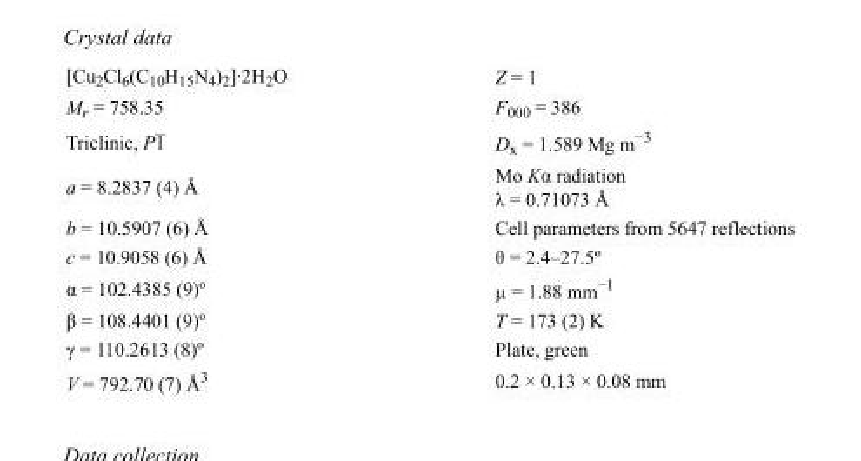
<table><tbody><tr><td>[Cu<sub>2</sub>Cl<sub>6</sub>(C<sub>10</sub>H<sub>15</sub>N<sub>4</sub>)<sub>2</sub>]·2H<sub>2</sub>O</td><td>Z = 1</td></tr><tr><td>M<sub>r</sub> = 758.35</td><td>F<sub>000</sub> = 386</td></tr><tr><td>Triclinic, P1</td><td>D<sub>x</sub> = 1.589 Mg m<sup>−3</sup></td></tr><tr><td>a = 8.2837 (4) Å</td><td>Mo Kα radiation λ = 0.71073 Å</td></tr><tr><td>b = 10.5907 (6) Å</td><td>Cell parameters from 5647 reflections</td></tr><tr><td>c = 10.9058 (6) Å</td><td>θ = 2.4–27.5º</td></tr><tr><td>α = 102.4385 (9)º</td><td>µ = 1.88 mm<sup>−1</sup></td></tr><tr><td>β = 108.4401 (9)º</td><td>T = 173 (2) K</td></tr><tr><td>γ = 110.2613 (8)º</td><td>Plate, green</td></tr><tr><td>V = 792.70 (7) Å<sup>3</sup></td><td>0.2 × 0.13 × 0.08 mm</td></tr></tbody></table>